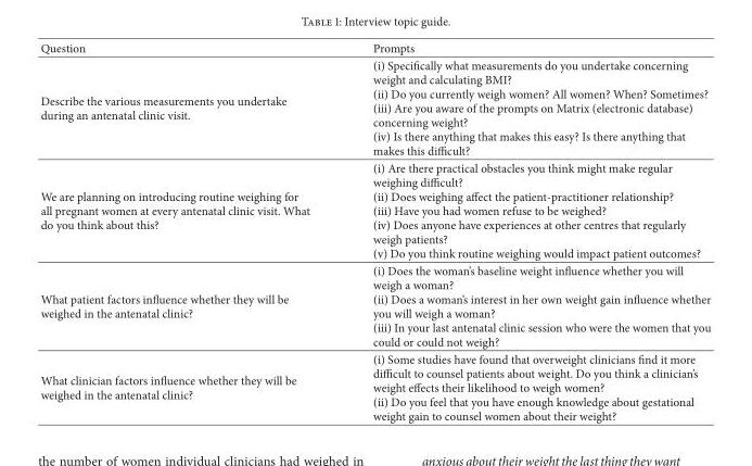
<table><thead><tr><td>Question</td><td>Prompts</td></tr></thead><tbody><tr><td>Describe the various measurements you undertake during an antenatal clinic visit.</td><td>(i) Specifically what measurements do you undertake concerning weight and calculating BMI? (ii) Do you currently weigh women? All women? When? Sometimes? (iii) Are you aware of the prompts on Matrix (electronic database) concerning weight? (iv) Is there anything that makes this easy? Is there anything that makes this difficult?</td></tr><tr><td>We are planning on introducing routine weighing for all pregnant women at every antenatal clinic visit. What do you think about this?</td><td>(i) Are there practical obstacles you think might make regular weighing difficult? (ii) Does weighing affect the patient-practitioner relationship? (iii) Have you had women refuse to be weighed? (iv) Does anyone have experiences at other centres that regularly weigh patients? (v) Do you think routine weighing would impact patient outcomes?</td></tr><tr><td>What patient factors influence whether they will be weighed in the antenatal clinic?</td><td>(i) Does the woman’s baseline weight influence whether you will weigh a woman? (ii) Does a woman’s interest in her own weight gain influence whether you will weigh a woman? (iii) In your last antenatal clinic session who were the women that you could or could not weigh?</td></tr><tr><td>What clinician factors influence whether they will be weighed in the antenatal clinic?</td><td>(i) Some studies have found that overweight clinicians find it more difficult to counsel patients about weight. Do you think a clinician’s weight effects their likelihood to weigh women? (ii) Do you feel that you have enough knowledge about gestational weight gain to counsel women about their weight?</td></tr></tbody></table>